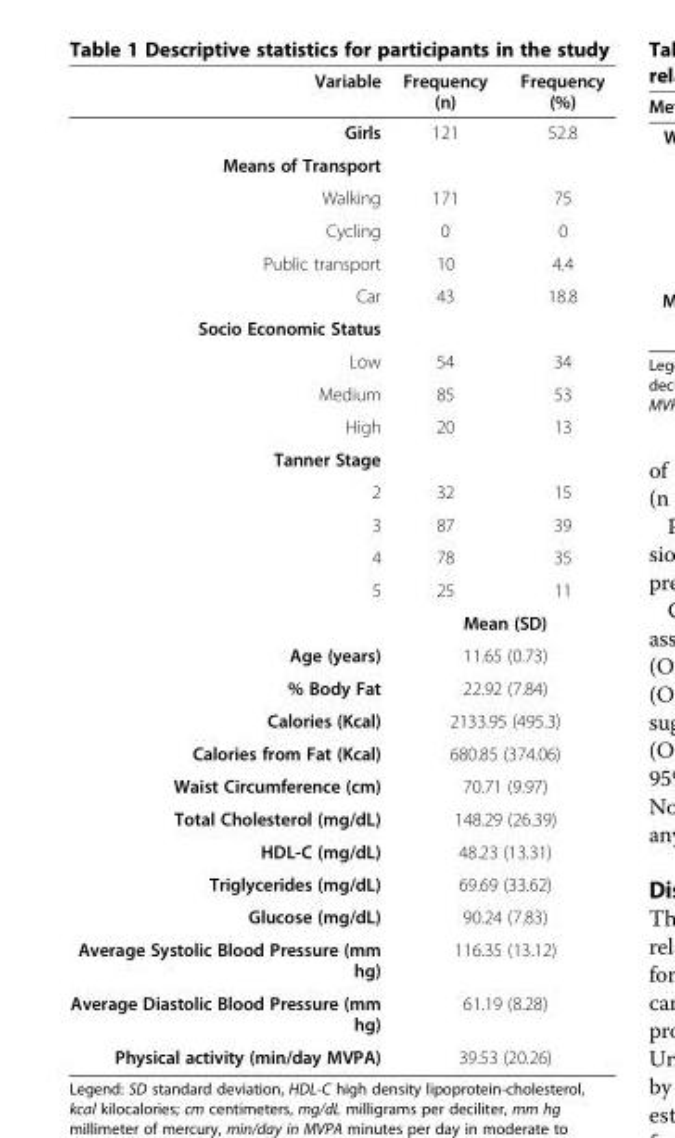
<table><thead><tr><td>Variable</td><td>Frequency (n)</td><td>Frequency (%)</td></tr></thead><tbody><tr><td>Girls</td><td>121</td><td>52.8</td></tr><tr><td colspan="3">Means of Transport</td></tr><tr><td>Walking</td><td>171</td><td>75</td></tr><tr><td>Cycling</td><td>0</td><td>0</td></tr><tr><td>Public transport</td><td>10</td><td>4.4</td></tr><tr><td>Car</td><td>43</td><td>18.8</td></tr><tr><td colspan="3">Socio Economic Status</td></tr><tr><td>Low</td><td>54</td><td>34</td></tr><tr><td>Medium</td><td>85</td><td>53</td></tr><tr><td>High</td><td>20</td><td>13</td></tr><tr><td colspan="3">Tanner Stage</td></tr><tr><td>2</td><td>32</td><td>15</td></tr><tr><td>3</td><td>87</td><td>39</td></tr><tr><td>4</td><td>78</td><td>35</td></tr><tr><td rowspan="2">5</td><td>25</td><td>11</td></tr><tr><td colspan="2">Mean (SD)</td></tr><tr><td>Age (years)</td><td colspan="2">11.65 (0.73)</td></tr><tr><td>% Body Fat</td><td colspan="2">22.92 (7.84)</td></tr><tr><td>Calories (Kcal)</td><td colspan="2">2133.95 (495.3)</td></tr><tr><td>Calories from Fat (Kcal)</td><td colspan="2">680.85 (374.06)</td></tr><tr><td>Waist Circumference (cm)</td><td colspan="2">70.71 (9.97)</td></tr><tr><td>Total Cholesterol (mg/dL)</td><td colspan="2">148.29 (26.39)</td></tr><tr><td>HDL-C (mg/dL)</td><td colspan="2">48.23 (13.31)</td></tr><tr><td>Triglycerides (mg/dL)</td><td colspan="2">69.69 (33.62)</td></tr><tr><td>Glucose (mg/dL)</td><td colspan="2">90.24 (7.83)</td></tr><tr><td>Average Systolic Blood Pressure (mm hg)</td><td colspan="2">116.35 (13.12)</td></tr><tr><td>Average Diastolic Blood Pressure (mm hg)</td><td colspan="2">61.19 (8.28)</td></tr><tr><td>Physical activity (min/day MVPA)</td><td colspan="2">39.53 (20.26)</td></tr></tbody></table>